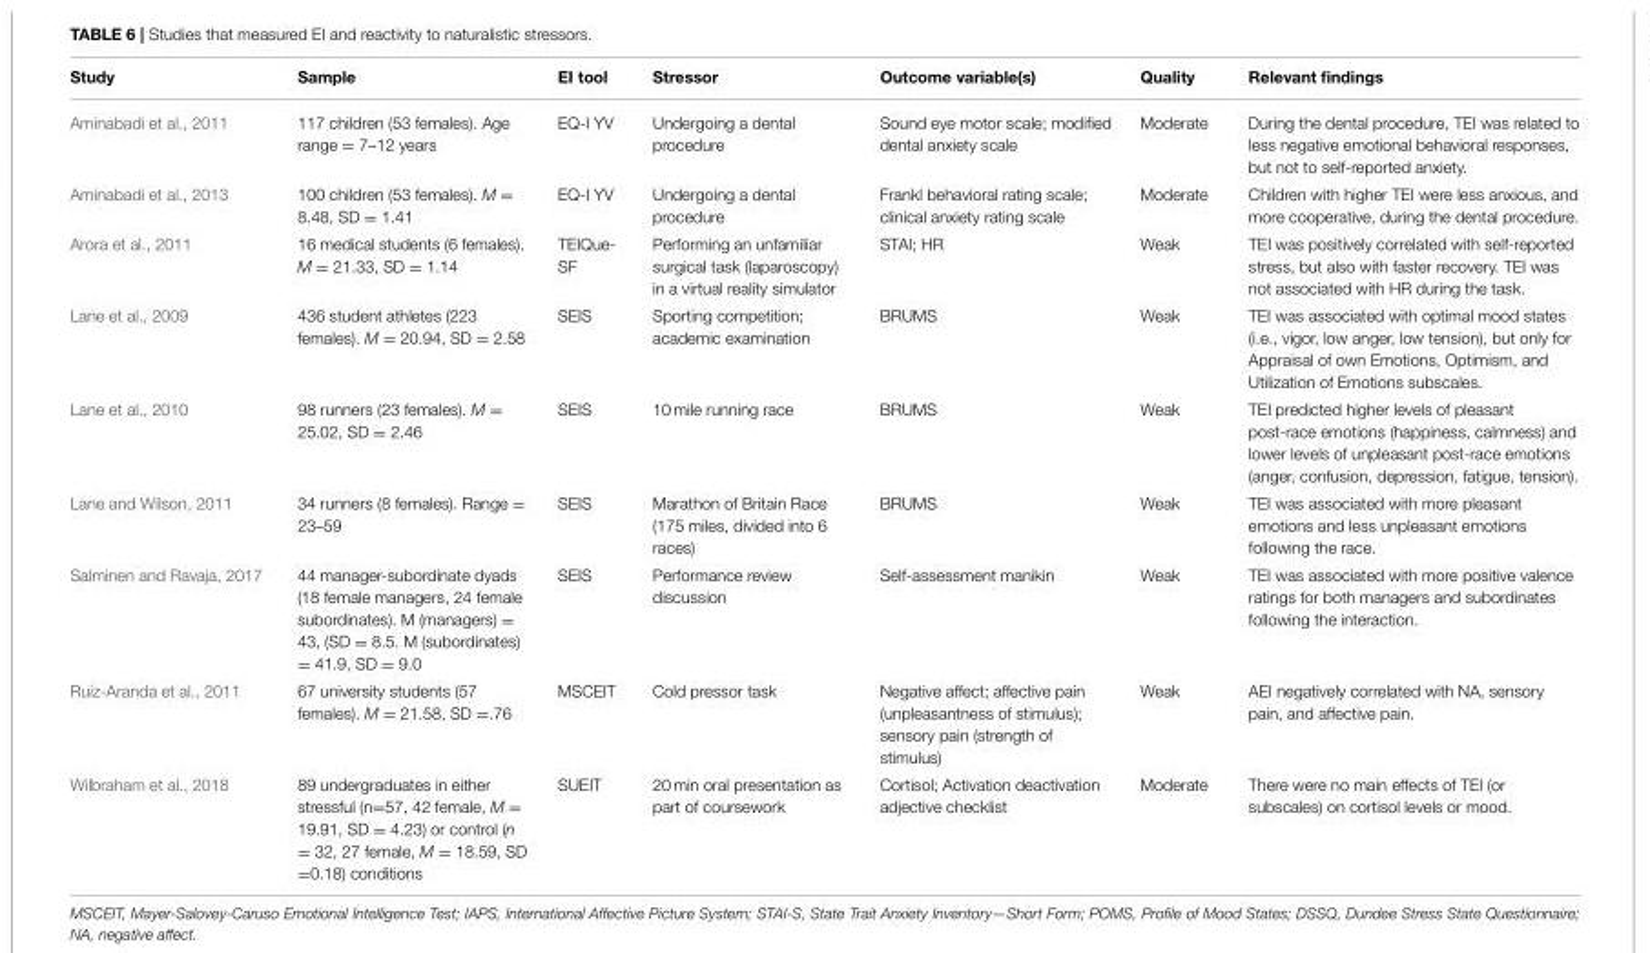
<table><thead><tr><td>Study</td><td>Sample</td><td>EI tool</td><td>Stressor</td><td>Outcome variable(s)</td><td>Quality</td><td>Relevant findings</td></tr></thead><tbody><tr><td>Aminabadi et al., 2011</td><td>117 children (53 females). Age range = 7–12 years</td><td>EQ-I YV</td><td>Undergoing a dental procedure</td><td>Sound eye motor scale; modified dental anxiety scale</td><td>Moderate</td><td>During the dental procedure, TEI was related to less negative emotional behavioral responses, but not to self-reported anxiety.</td></tr><tr><td>Aminabadi et al., 2013</td><td>100 children (53 females). M = 8.48, SD = 1.41</td><td>EQ-I YV</td><td>Undergoing a dental procedure</td><td>Frankl behavioral rating scale; clinical anxiety rating scale</td><td>Moderate</td><td>Children with higher TEI were less anxious, and more cooperative, during the dental procedure.</td></tr><tr><td>Arora et al., 2011</td><td>16 medical students (6 females). M = 21.33, SD = 1.14</td><td>TEIQue- SF</td><td>Performing an unfamiliar surgical task (laparoscopy) in a virtual reality simulator</td><td>STAI; HR</td><td>Weak</td><td>TEI was positively correlated with self-reported stress, but also with faster recovery. TEI was not associated with HR during the task.</td></tr><tr><td>Lane et al., 2009</td><td>436 student athletes (223 females). M = 20.94, SD = 2.58</td><td>SEIS</td><td>Sporting competition; academic examination</td><td>BRUMS</td><td>Weak</td><td>TEI was associated with optimal mood states (i.e., vigor, low anger, low tension), but only for Appraisal of own Emotions, Optimism, and Utilization of Emotions subscales.</td></tr><tr><td>Lane et al., 2010</td><td>98 runners (23 females). M = 25.02, SD = 2.46</td><td>SEIS</td><td>10 mile running race</td><td>BRUMS</td><td>Weak</td><td>TEI predicted higher levels of pleasant post-race emotions (happiness, calmness) and lower levels of unpleasant post-race emotions (anger, confusion, depression, fatigue, tension).</td></tr><tr><td>Lane and Wilson, 2011</td><td>34 runners (8 females). Range = 23–59</td><td>SEIS</td><td>Marathon of Britain Race (175 miles, divided into 6 races)</td><td>BRUMS</td><td>Weak</td><td>TEI was associated with more pleasant emotions and less unpleasant emotions following the race.</td></tr><tr><td>Salminen and Ravaja, 2017</td><td>44 manager-subordinate dyads (18 female managers, 24 female subordinates). M (managers) = 43, (SD = 8.5. M (subordinates) = 41.9, SD = 9.0</td><td>SEIS</td><td>Performance review discussion</td><td>Self-assessment manikin</td><td>Weak</td><td>TEI was associated with more positive valence ratings for both managers and subordinates following the interaction.</td></tr><tr><td>Ruiz-Aranda et al., 2011</td><td>67 university students (57 females). M = 21.58, SD =.76</td><td>MSCEIT</td><td>Cold pressor task</td><td>Negative affect; affective pain (unpleasantness of stimulus); sensory pain (strength of stimulus)</td><td>Weak</td><td>AEI negatively correlated with NA, sensory pain, and affective pain.</td></tr><tr><td>Wilbraham et al., 2018</td><td>89 undergraduates in either stressful (n=57, 42 female, M = 19.91, SD = 4.23) or control (n = 32, 27 female, M = 18.59, SD =0.18) conditions</td><td>SUEIT</td><td>20 min oral presentation as part of coursework</td><td>Cortisol; Activation deactivation adjective checklist</td><td>Moderate</td><td>There were no main effects of TEI (or subscales) on cortisol levels or mood.</td></tr></tbody></table>